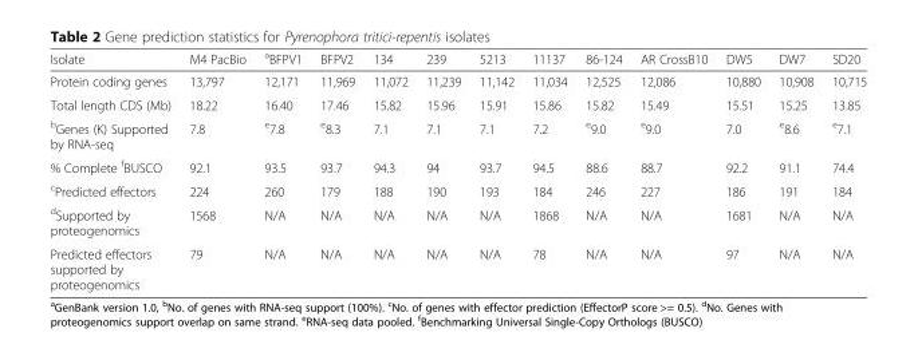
<table><thead><tr><td>Isolate</td><td>M4 PacBio</td><td><sup>a</sup>BFPV1</td><td>BFPV2</td><td>134</td><td>239</td><td>5213</td><td>11137</td><td>86-124</td><td>AR CrossB10</td><td>DW5</td><td>DW7</td><td>SD20</td></tr></thead><tbody><tr><td>Protein coding genes</td><td>13,797</td><td>12,171</td><td>11,969</td><td>11,072</td><td>11,239</td><td>11,142</td><td>11,034</td><td>12,525</td><td>12,086</td><td>10,880</td><td>10,908</td><td>10,715</td></tr><tr><td>Total length CDS (Mb)</td><td>18.22</td><td>16.40</td><td>17.46</td><td>15.82</td><td>15.96</td><td>15.91</td><td>15.86</td><td>15.82</td><td>15.49</td><td>15.51</td><td>15.25</td><td>13.85</td></tr><tr><td><sup>b</sup>Genes (K) Supported by RNA-seq</td><td>7.8</td><td><sup>e</sup>7.8</td><td><sup>e</sup>8.3</td><td>7.1</td><td>7.1</td><td>7.1</td><td>7.2</td><td><sup>e</sup>9.0</td><td><sup>e</sup>9.0</td><td>7.0</td><td><sup>e</sup>8.6</td><td><sup>e</sup>7.1</td></tr><tr><td>% Complete <sup>f</sup>BUSCO</td><td>92.1</td><td>93.5</td><td>93.7</td><td>94.3</td><td>94</td><td>93.7</td><td>94.5</td><td>88.6</td><td>88.7</td><td>92.2</td><td>91.1</td><td>74.4</td></tr><tr><td><sup>c</sup>Predicted effectors</td><td>224</td><td>260</td><td>179</td><td>188</td><td>190</td><td>193</td><td>184</td><td>246</td><td>227</td><td>186</td><td>191</td><td>184</td></tr><tr><td><sup>d</sup>Supported by proteogenomics</td><td>1568</td><td>N/A</td><td>N/A</td><td>N/A</td><td>N/A</td><td>N/A</td><td>1868</td><td>N/A</td><td>N/A</td><td>1681</td><td>N/A</td><td>N/A</td></tr><tr><td>Predicted effectors supported by proteogenomics</td><td>79</td><td>N/A</td><td>N/A</td><td>N/A</td><td>N/A</td><td>N/A</td><td>78</td><td>N/A</td><td>N/A</td><td>97</td><td>N/A</td><td>N/A</td></tr></tbody></table>